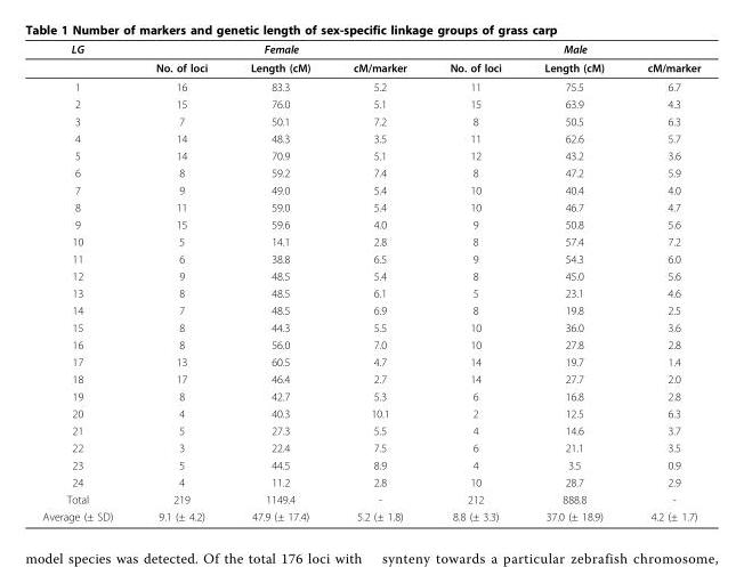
<table><thead><tr><td rowspan="2">LG</td><td colspan="3">Female</td><td colspan="3">Male</td></tr><tr><td>No. of loci</td><td>Length (cM)</td><td>cM/marker</td><td>No. of loci</td><td>Length (cM)</td><td>cM/marker</td></tr></thead><tbody><tr><td>1</td><td>16</td><td>83.3</td><td>5.2</td><td>11</td><td>75.5</td><td>6.7</td></tr><tr><td>2</td><td>15</td><td>76.0</td><td>5.1</td><td>15</td><td>63.9</td><td>4.3</td></tr><tr><td>3</td><td>7</td><td>50.1</td><td>7.2</td><td>8</td><td>50.5</td><td>6.3</td></tr><tr><td>4</td><td>14</td><td>48.3</td><td>3.5</td><td>11</td><td>62.6</td><td>5.7</td></tr><tr><td>5</td><td>14</td><td>70.9</td><td>5.1</td><td>12</td><td>43.2</td><td>3.6</td></tr><tr><td>6</td><td>8</td><td>59.2</td><td>7.4</td><td>8</td><td>47.2</td><td>5.9</td></tr><tr><td>7</td><td>9</td><td>49.0</td><td>5.4</td><td>10</td><td>40.4</td><td>4.0</td></tr><tr><td>8</td><td>11</td><td>59.0</td><td>5.4</td><td>10</td><td>46.7</td><td>4.7</td></tr><tr><td>9</td><td>15</td><td>59.6</td><td>4.0</td><td>9</td><td>50.8</td><td>5.6</td></tr><tr><td>10</td><td>5</td><td>14.1</td><td>2.8</td><td>8</td><td>57.4</td><td>7.2</td></tr><tr><td>11</td><td>6</td><td>38.8</td><td>6.5</td><td>9</td><td>54.3</td><td>6.0</td></tr><tr><td>12</td><td>9</td><td>48.5</td><td>5.4</td><td>8</td><td>45.0</td><td>5.6</td></tr><tr><td>13</td><td>8</td><td>48.5</td><td>6.1</td><td>5</td><td>23.1</td><td>4.6</td></tr><tr><td>14</td><td>7</td><td>48.5</td><td>6.9</td><td>8</td><td>19.8</td><td>2.5</td></tr><tr><td>15</td><td>8</td><td>44.3</td><td>5.5</td><td>10</td><td>36.0</td><td>3.6</td></tr><tr><td>16</td><td>8</td><td>56.0</td><td>7.0</td><td>10</td><td>27.8</td><td>2.8</td></tr><tr><td>17</td><td>13</td><td>60.5</td><td>4.7</td><td>14</td><td>19.7</td><td>1.4</td></tr><tr><td>18</td><td>17</td><td>46.4</td><td>2.7</td><td>14</td><td>27.7</td><td>2.0</td></tr><tr><td>19</td><td>8</td><td>42.7</td><td>5.3</td><td>6</td><td>16.8</td><td>2.8</td></tr><tr><td>20</td><td>4</td><td>40.3</td><td>10.1</td><td>2</td><td>12.5</td><td>6.3</td></tr><tr><td>21</td><td>5</td><td>27.3</td><td>5.5</td><td>4</td><td>14.6</td><td>3.7</td></tr><tr><td>22</td><td>3</td><td>22.4</td><td>7.5</td><td>6</td><td>21.1</td><td>3.5</td></tr><tr><td>23</td><td>5</td><td>44.5</td><td>8.9</td><td>4</td><td>3.5</td><td>0.9</td></tr><tr><td>24</td><td>4</td><td>11.2</td><td>2.8</td><td>10</td><td>28.7</td><td>2.9</td></tr><tr><td>Total</td><td>219</td><td>1149.4</td><td>-</td><td>212</td><td>888.8</td><td>-</td></tr><tr><td>Average (± SD)</td><td>9.1 (± 4.2)</td><td>47.9 (± 17.4)</td><td>5.2 (± 1.8)</td><td>8.8 (± 3.3)</td><td>37.0 (± 18.9)</td><td>4.2 (± 1.7)</td></tr></tbody></table>